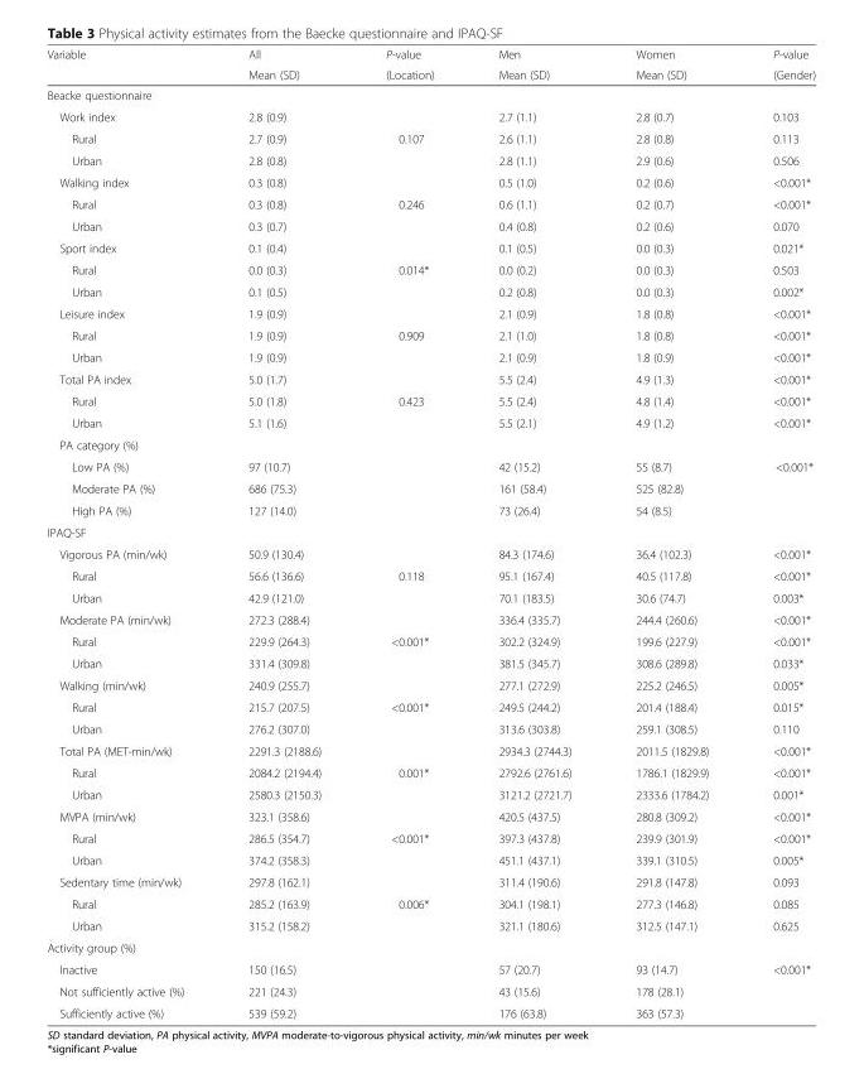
<table><thead><tr><td rowspan="2">Variable</td><td rowspan="2">All Mean (SD)</td><td rowspan="2">P-value (Location)</td><td rowspan="2">Men Mean (SD)</td><td rowspan="2">Women Mean (SD)</td><td rowspan="2">P-value (Gender)</td></tr><tr></tr></thead><tbody><tr><td colspan="6">Beacke questionnaire</td></tr><tr><td>Work index</td><td>2.8 (0.9)</td><td></td><td>2.7 (1.1)</td><td>2.8 (0.7)</td><td>0.103</td></tr><tr><td>Rural</td><td>2.7 (0.9)</td><td rowspan="2">0.107</td><td>2.6 (1.1)</td><td>2.8 (0.8)</td><td>0.113</td></tr><tr><td>Urban</td><td>2.8 (0.8)</td><td>2.8 (1.1)</td><td>2.9 (0.6)</td><td>0.506</td></tr><tr><td>Walking index</td><td>0.3 (0.8)</td><td></td><td>0.5 (1.0)</td><td>0.2 (0.6)</td><td>&lt;0.001*</td></tr><tr><td>Rural</td><td>0.3 (0.8)</td><td rowspan="2">0.246</td><td>0.6 (1.1)</td><td>0.2 (0.7)</td><td>&lt;0.001*</td></tr><tr><td>Urban</td><td>0.3 (0.7)</td><td>0.4 (0.8)</td><td>0.2 (0.6)</td><td>0.070</td></tr><tr><td>Sport index</td><td>0.1 (0.4)</td><td></td><td>0.1 (0.5)</td><td>0.0 (0.3)</td><td>0.021*</td></tr><tr><td>Rural</td><td>0.0 (0.3)</td><td rowspan="2">0.014*</td><td>0.0 (0.2)</td><td>0.0 (0.3)</td><td>0.503</td></tr><tr><td>Urban</td><td>0.1 (0.5)</td><td>0.2 (0.8)</td><td>0.0 (0.3)</td><td>0.002*</td></tr><tr><td>Leisure index</td><td>1.9 (0.9)</td><td></td><td>2.1 (0.9)</td><td>1.8 (0.8)</td><td>&lt;0.001*</td></tr><tr><td>Rural</td><td>1.9 (0.9)</td><td rowspan="2">0.909</td><td>2.1 (1.0)</td><td>1.8 (0.8)</td><td>&lt;0.001*</td></tr><tr><td>Urban</td><td>1.9 (0.9)</td><td>2.1 (0.9)</td><td>1.8 (0.9)</td><td>&lt;0.001*</td></tr><tr><td>Total PA index</td><td>5.0 (1.7)</td><td></td><td>5.5 (2.4)</td><td>4.9 (1.3)</td><td>&lt;0.001*</td></tr><tr><td>Rural</td><td>5.0 (1.8)</td><td rowspan="2">0.423</td><td>5.5 (2.4)</td><td>4.8 (1.4)</td><td>&lt;0.001*</td></tr><tr><td>Urban</td><td>5.1 (1.6)</td><td>5.5 (2.1)</td><td>4.9 (1.2)</td><td>&lt;0.001*</td></tr><tr><td colspan="6">PA category (%)</td></tr><tr><td>Low PA (%)</td><td>97 (10.7)</td><td></td><td>42 (15.2)</td><td>55 (8.7)</td><td rowspan="3">&lt;0.001*</td></tr><tr><td>Moderate PA (%)</td><td>686 (75.3)</td><td></td><td>161 (58.4)</td><td>525 (82.8)</td></tr><tr><td>High PA (%)</td><td>127 (14.0)</td><td></td><td>73 (26.4)</td><td>54 (8.5)</td></tr><tr><td colspan="6">IPAQ-SF</td></tr><tr><td>Vigorous PA (min/wk)</td><td>50.9 (130.4)</td><td></td><td>84.3 (174.6)</td><td>36.4 (102.3)</td><td>&lt;0.001*</td></tr><tr><td>Rural</td><td>56.6 (136.6)</td><td rowspan="2">0.118</td><td>95.1 (167.4)</td><td>40.5 (117.8)</td><td>&lt;0.001*</td></tr><tr><td>Urban</td><td>42.9 (121.0)</td><td>70.1 (183.5)</td><td>30.6 (74.7)</td><td>0.003*</td></tr><tr><td>Moderate PA (min/wk)</td><td>272.3 (288.4)</td><td></td><td>336.4 (335.7)</td><td>244.4 (260.6)</td><td>&lt;0.001*</td></tr><tr><td>Rural</td><td>229.9 (264.3)</td><td rowspan="2">&lt;0.001*</td><td>302.2 (324.9)</td><td>199.6 (227.9)</td><td>&lt;0.001*</td></tr><tr><td>Urban</td><td>331.4 (309.8)</td><td>381.5 (345.7)</td><td>308.6 (289.8)</td><td>0.033*</td></tr><tr><td>Walking (min/wk)</td><td>240.9 (255.7)</td><td></td><td>277.1 (272.9)</td><td>225.2 (246.5)</td><td>0.005*</td></tr><tr><td>Rural</td><td>215.7 (207.5)</td><td rowspan="2">&lt;0.001*</td><td>249.5 (244.2)</td><td>201.4 (188.4)</td><td>0.015*</td></tr><tr><td>Urban</td><td>276.2 (307.0)</td><td>313.6 (303.8)</td><td>259.1 (308.5)</td><td>0.110</td></tr><tr><td>Total PA (MET-min/wk)</td><td>2291.3 (2188.6)</td><td></td><td>2934.3 (2744.3)</td><td>2011.5 (1829.8)</td><td>&lt;0.001*</td></tr><tr><td>Rural</td><td>2084.2 (2194.4)</td><td rowspan="2">0.001*</td><td>2792.6 (2761.6)</td><td>1786.1 (1829.9)</td><td>&lt;0.001*</td></tr><tr><td>Urban</td><td>2580.3 (2150.3)</td><td>3121.2 (2721.7)</td><td>2333.6 (1784.2)</td><td>0.001*</td></tr><tr><td>MVPA (min/wk)</td><td>323.1 (358.6)</td><td></td><td>420.5 (437.5)</td><td>280.8 (309.2)</td><td>&lt;0.001*</td></tr><tr><td>Rural</td><td>286.5 (354.7)</td><td rowspan="2">&lt;0.001*</td><td>397.3 (437.8)</td><td>239.9 (301.9)</td><td>&lt;0.001*</td></tr><tr><td>Urban</td><td>374.2 (358.3)</td><td>451.1 (437.1)</td><td>339.1 (310.5)</td><td>0.005*</td></tr><tr><td>Sedentary time (min/wk)</td><td>297.8 (162.1)</td><td></td><td>311.4 (190.6)</td><td>291.8 (147.8)</td><td>0.093</td></tr><tr><td>Rural</td><td>285.2 (163.9)</td><td rowspan="2">0.006*</td><td>304.1 (198.1)</td><td>277.3 (146.8)</td><td>0.085</td></tr><tr><td>Urban</td><td>315.2 (158.2)</td><td>321.1 (180.6)</td><td>312.5 (147.1)</td><td>0.625</td></tr><tr><td colspan="6">Activity group (%)</td></tr><tr><td>Inactive</td><td>150 (16.5)</td><td></td><td>57 (20.7)</td><td>93 (14.7)</td><td>&lt;0.001*</td></tr><tr><td>Not sufficiently active (%)</td><td>221 (24.3)</td><td></td><td>43 (15.6)</td><td>178 (28.1)</td><td rowspan="2"></td></tr><tr><td>Sufficiently active (%)</td><td>539 (59.2)</td><td></td><td>176 (63.8)</td><td>363 (57.3)</td></tr></tbody></table>